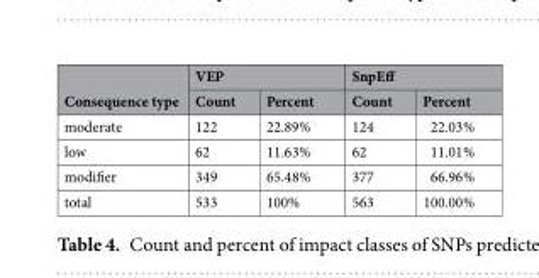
<table><thead><tr><td rowspan="2">Consequence type</td><td colspan="2">VEP</td><td colspan="2">SnpEff</td></tr><tr><td>Count</td><td>Percent</td><td>Count</td><td>Percent</td></tr></thead><tbody><tr><td>moderate</td><td>122</td><td>22.89%</td><td>124</td><td>22.03%</td></tr><tr><td>low</td><td>62</td><td>11.63%</td><td>62</td><td>11.01%</td></tr><tr><td>modifier</td><td>349</td><td>65.48%</td><td>377</td><td>66.96%</td></tr><tr><td>total</td><td>533</td><td>100%</td><td>563</td><td>100.00%</td></tr></tbody></table>